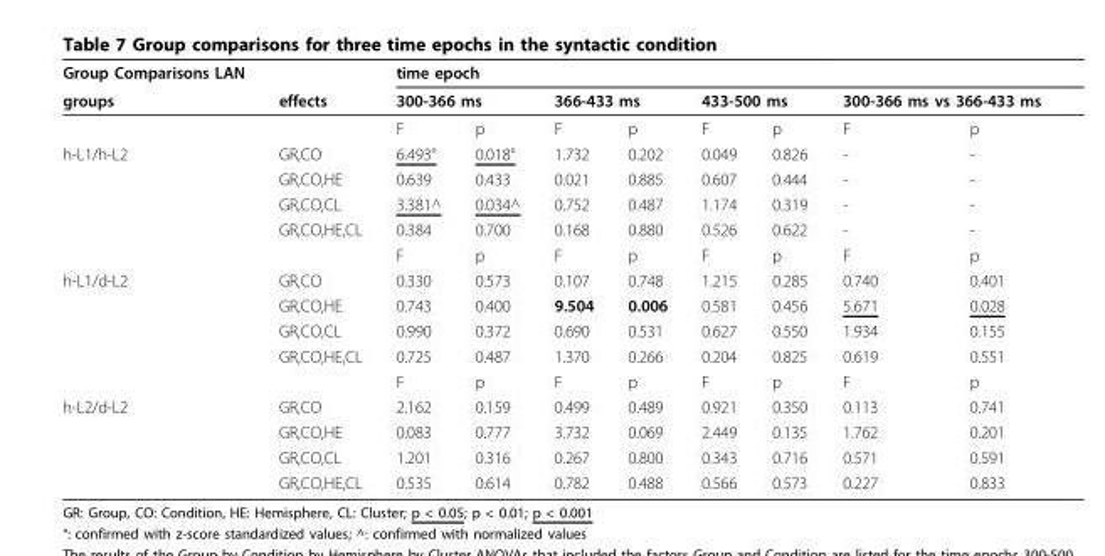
<table><thead><tr><td rowspan="2">Group Comparisons LAN groups</td><td rowspan="2">effects</td><td colspan="4">time epoch</td><td></td><td></td><td></td><td></td></tr><tr><td colspan="2">300-366 ms</td><td colspan="2">366-433 ms</td><td colspan="2">433-500 ms</td><td colspan="2">300-366 ms vs 366-433 ms</td></tr><tr><td colspan="2"></td><td>F</td><td>p</td><td>F</td><td>p</td><td>F</td><td>p</td><td>F</td><td>p</td></tr></thead><tbody><tr><td rowspan="5">h-L1/h-L2</td><td>GR,CO</td><td>6.493°</td><td>0.018°</td><td>1.732</td><td>0.202</td><td>0.049</td><td>0.826</td><td>-</td><td>-</td></tr><tr><td>GR,CO,HE</td><td>0.639</td><td>0.433</td><td>0.021</td><td>0.885</td><td>0.607</td><td>0.444</td><td>-</td><td>-</td></tr><tr><td>GR,CO,CL</td><td>3.381^</td><td>0.034^</td><td>0.752</td><td>0.487</td><td>1.174</td><td>0.319</td><td>-</td><td>-</td></tr><tr><td>GR,CO,HE,CL</td><td>0.384</td><td>0.700</td><td>0.168</td><td>0.880</td><td>0.526</td><td>0.622</td><td>-</td><td>-</td></tr><tr><td></td><td>F</td><td>p</td><td>F</td><td>p</td><td>F</td><td>p</td><td>F</td><td>p</td></tr><tr><td rowspan="5">h-L1/d-L2</td><td>GR,CO</td><td>0.330</td><td>0.573</td><td>0.107</td><td>0.748</td><td>1.215</td><td>0.285</td><td>0.740</td><td>0.401</td></tr><tr><td>GR,CO,HE</td><td>0.743</td><td>0.400</td><td>9.504</td><td>0.006</td><td>0.581</td><td>0.456</td><td>5.671</td><td>0.028</td></tr><tr><td>GR,CO,CL</td><td>0.990</td><td>0.372</td><td>0.690</td><td>0.531</td><td>0.627</td><td>0.550</td><td>1.934</td><td>0.155</td></tr><tr><td>GR,CO,HE,CL</td><td>0.725</td><td>0.487</td><td>1.370</td><td>0.266</td><td>0.204</td><td>0.825</td><td>0.619</td><td>0.551</td></tr><tr><td></td><td>F</td><td>p</td><td>F</td><td>p</td><td>F</td><td>p</td><td>F</td><td>p</td></tr><tr><td rowspan="4">h-L2/d-L2</td><td>GR,CO</td><td>2.162</td><td>0.159</td><td>0.499</td><td>0.489</td><td>0.921</td><td>0.350</td><td>0.113</td><td>0.741</td></tr><tr><td>GR,CO,HE</td><td>0.083</td><td>0.777</td><td>3.732</td><td>0.069</td><td>2.449</td><td>0.135</td><td>1.762</td><td>0.201</td></tr><tr><td>GR,CO,CL</td><td>1.201</td><td>0.316</td><td>0.267</td><td>0.800</td><td>0.343</td><td>0.716</td><td>0.571</td><td>0.591</td></tr><tr><td>GR,CO,HE,CL</td><td>0.535</td><td>0.614</td><td>0.782</td><td>0.488</td><td>0.566</td><td>0.573</td><td>0.227</td><td>0.833</td></tr></tbody></table>